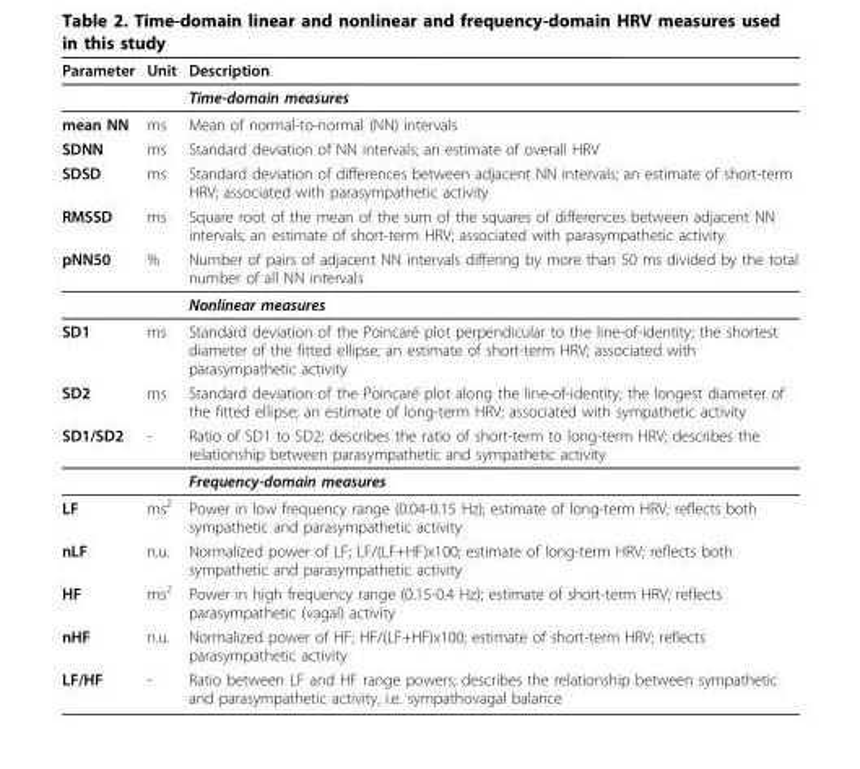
<table><thead><tr><td>Parameter</td><td>Unit</td><td>Description</td></tr></thead><tbody><tr><td></td><td></td><td>Time-domain measures</td></tr><tr><td>mean NN</td><td>ms</td><td>Mean of normal-to-normal (NN) intervals</td></tr><tr><td>SDNN</td><td>ms</td><td>Standard deviation of NN intervals; an estimate of overall HRV</td></tr><tr><td>SDSD</td><td>ms</td><td>Standard deviation of differences between adjacent NN intervals; an estimate of short-term HRV; associated with parasympathetic activity</td></tr><tr><td>RMSSD</td><td>ms</td><td>Square root of the mean of the sum of the squares of differences between adjacent NN intervals; an estimate of short-term HRV; associated with parasympathetic activity</td></tr><tr><td rowspan="2">pNN50</td><td>%</td><td>Number of pairs of adjacent NN intervals differing by more than 50 ms divided by the total number of all NN intervals</td></tr><tr><td></td><td>Nonlinear measures</td></tr><tr><td>SD1</td><td>ms</td><td>Standard deviation of the Poincaré plot perpendicular to the line-of-identity; the shortest diameter of the fitted ellipse; an estimate of short-term HRV; associated with parasympathetic activity</td></tr><tr><td>SD2</td><td>ms</td><td>Standard deviation of the Poincaré plot along the line-of-identity; the longest diameter of the fitted ellipse; an estimate of long-term HRV; associated with sympathetic activity</td></tr><tr><td rowspan="2">SD1/SD2</td><td>-</td><td>Ratio of SD1 to SD2; describes the ratio of short-term to long-term HRV; describes the relationship between parasympathetic and sympathetic activity</td></tr><tr><td></td><td>Frequency-domain measures</td></tr><tr><td>LF</td><td>ms<sup>2</sup></td><td>Power in low frequency range (0.04-0.15 Hz); estimate of long-term HRV; reflects both sympathetic and parasympathetic activity</td></tr><tr><td>nLF</td><td>n.u.</td><td>Normalized power of LF; LF/(LF+HF)x100; estimate of long-term HRV; reflects both sympathetic and parasympathetic activity</td></tr><tr><td>HF</td><td>ms<sup>2</sup></td><td>Power in high frequency range (0.15-0.4 Hz); estimate of short-term HRV; reflects parasympathetic (vagal) activity</td></tr><tr><td>nHF</td><td>n.u.</td><td>Normalized power of HF; HF/(LF+HF)x100; estimate of short-term HRV; reflects parasympathetic activity</td></tr><tr><td>LF/HF</td><td>-</td><td>Ratio between LF and HF range powers; describes the relationship between sympathetic and parasympathetic activity, i.e. sympathovagal balance</td></tr></tbody></table>